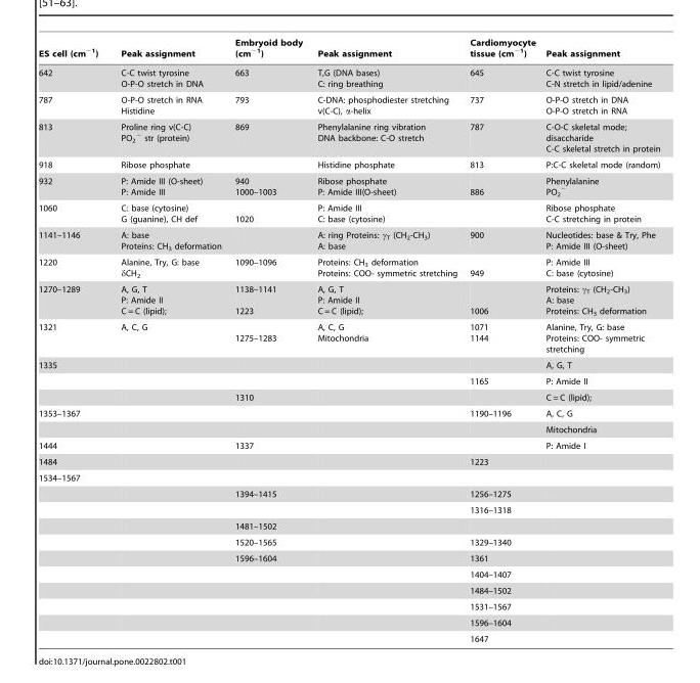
<table><thead><tr><td>ES cell (cm<sup>−1</sup>)</td><td>Peak assignment</td><td>Embryoid body (cm<sup>−1</sup>)</td><td>Peak assignment</td><td>Cardiomyocyte tissue (cm<sup>−1</sup>)</td><td>Peak assignment</td></tr></thead><tbody><tr><td>642</td><td>C-C twist tyrosine O-P-O stretch in DNA</td><td>663</td><td>T,G (DNA bases) C: ring breathing</td><td>645</td><td>C-C twist tyrosine C-N stretch in lipid/adenine</td></tr><tr><td>787</td><td>O-P-O stretch in RNA Histidine</td><td>793</td><td>C-DNA: phosphodiester stretching v(C-C), α-helix</td><td>737</td><td>O-P-O stretch in DNA O-P-O stretch in RNA</td></tr><tr><td>813</td><td>Proline ring v(C-C) PO<sub>2</sub> <sup>−</sup> str (protein)</td><td>869</td><td>Phenylalanine ring vibration DNA backbone: C-O stretch</td><td>787</td><td>C-O-C skeletal mode; disaccharide C-C skeletal stretch in protein</td></tr><tr><td>918</td><td>Ribose phosphate</td><td></td><td>Histidine phosphate</td><td>813</td><td>P:C-C skeletal mode (random)</td></tr><tr><td>932</td><td>P: Amide III (O-sheet) P: Amide III</td><td>940 1000–1003</td><td>Ribose phosphate P: Amide III(O-sheet)</td><td>886</td><td>Phenylalanine PO<sub>2</sub> <sup>−</sup></td></tr><tr><td>1060</td><td>C: base (cytosine) G (guanine), CH def</td><td>1020</td><td>P: Amide III C: base (cytosine)</td><td></td><td>Ribose phosphate C-C stretching in protein</td></tr><tr><td>1141–1146</td><td>A: base Proteins: CH<sub>3</sub> deformation</td><td></td><td>A: ring Proteins: γ<sub>T</sub> (CH<sub>2</sub>-CH<sub>3</sub>) A: base</td><td>900</td><td>Nucleotides: base &amp; Try, Phe P: Amide III (O-sheet)</td></tr><tr><td>1220</td><td>Alanine, Try, G: base δCH<sub>2</sub></td><td>1090–1096</td><td>Proteins: CH<sub>3</sub> deformation Proteins: COO- symmetric stretching</td><td>949</td><td>P: Amide III C: base (cytosine)</td></tr><tr><td>1270–1289</td><td>A, G, T P: Amide II C = C (lipid);</td><td>1138–1141 1223</td><td>A, G, T P: Amide II C = C (lipid);</td><td>1006</td><td>Proteins: γ<sub>T</sub> (CH<sub>2</sub>-CH<sub>3</sub>) A: base Proteins: CH<sub>3</sub> deformation</td></tr><tr><td>1321</td><td>A, C, G</td><td>1275–1283</td><td>A, C, G Mitochondria</td><td>1071 1144</td><td>Alanine, Try, G: base Proteins: COO- symmetric stretching</td></tr><tr><td rowspan="3">1335</td><td></td><td></td><td></td><td></td><td>A, G, T</td></tr><tr><td></td><td></td><td></td><td>1165</td><td>P: Amide II</td></tr><tr><td></td><td>1310</td><td></td><td></td><td>C = C (lipid);</td></tr><tr><td rowspan="2">1353–1367</td><td></td><td></td><td></td><td>1190–1196</td><td>A, C, G</td></tr><tr><td></td><td></td><td></td><td></td><td>Mitochondria</td></tr><tr><td>1444</td><td></td><td>1337</td><td></td><td></td><td>P: Amide I</td></tr><tr><td>1484</td><td></td><td></td><td></td><td>1223</td><td></td></tr><tr><td colspan="6">1534–1567</td></tr><tr><td></td><td></td><td>1394–1415</td><td></td><td>1256–1275</td><td></td></tr><tr><td></td><td></td><td></td><td></td><td>1316–1318</td><td></td></tr><tr><td></td><td></td><td>1481–1502</td><td></td><td></td><td></td></tr><tr><td></td><td></td><td>1520–1565</td><td></td><td>1329–1340</td><td></td></tr><tr><td></td><td></td><td>1596–1604</td><td></td><td>1361</td><td></td></tr><tr><td></td><td></td><td></td><td></td><td>1404–1407</td><td></td></tr><tr><td></td><td></td><td></td><td></td><td>1484–1502</td><td></td></tr><tr><td></td><td></td><td></td><td></td><td>1531–1567</td><td></td></tr><tr><td></td><td></td><td></td><td></td><td>1596–1604</td><td></td></tr><tr><td></td><td></td><td></td><td></td><td>1647</td><td></td></tr></tbody></table>